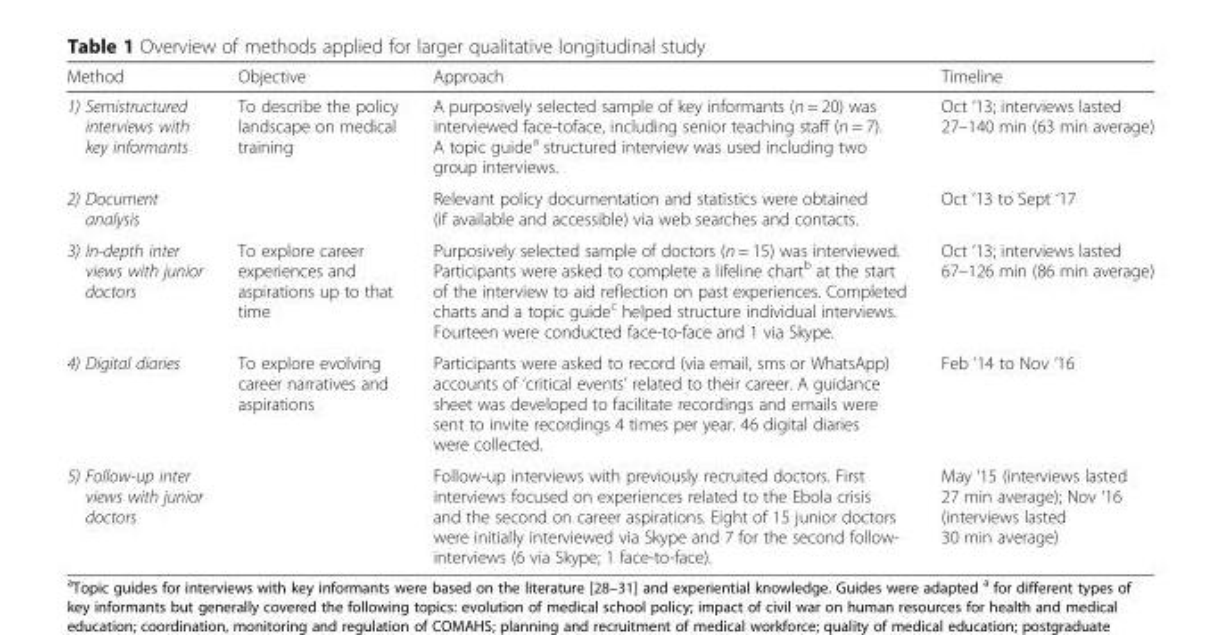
<table><thead><tr><td>Method</td><td>Objective</td><td>Approach</td><td>Timeline</td></tr></thead><tbody><tr><td>1) Semistructured interviews with key informants</td><td rowspan="2">To describe the policy landscape on medical training</td><td>A purposively selected sample of key informants (n = 20) was interviewed face-toface, including senior teaching staff (n = 7). A topic guide<sup>a</sup> structured interview was used including two group interviews.</td><td>Oct ‘13; interviews lasted 27–140 min (63 min average)</td></tr><tr><td>2) Document analysis</td><td>Relevant policy documentation and statistics were obtained (if available and accessible) via web searches and contacts.</td><td>Oct ‘13 to Sept ‘17</td></tr><tr><td>3) In-depth inter views with junior doctors</td><td>To explore career experiences and aspirations up to that time</td><td>Purposively selected sample of doctors (n = 15) was interviewed. Participants were asked to complete a lifeline chart<sup>b</sup> at the start of the interview to aid reflection on past experiences. Completed charts and a topic guide<sup>c</sup> helped structure individual interviews. Fourteen were conducted face-to-face and 1 via Skype.</td><td>Oct ‘13; interviews lasted 67–126 min (86 min average)</td></tr><tr><td>4) Digital diaries</td><td rowspan="2">To explore evolving career narratives and aspirations</td><td>Participants were asked to record (via email, sms or WhatsApp) accounts of ‘critical events’ related to their career. A guidance sheet was developed to facilitate recordings and emails were sent to invite recordings 4 times per year. 46 digital diaries were collected.</td><td>Feb ‘14 to Nov ‘16</td></tr><tr><td>5) Follow-up inter views with junior doctors</td><td>Follow-up interviews with previously recruited doctors. First interviews focused on experiences related to the Ebola crisis and the second on career aspirations. Eight of 15 junior doctors were initially interviewed via Skype and 7 for the second follow- interviews (6 via Skype; 1 face-to-face).</td><td>May ‘15 (interviews lasted 27 min average); Nov ‘16 (interviews lasted 30 min average)</td></tr></tbody></table>